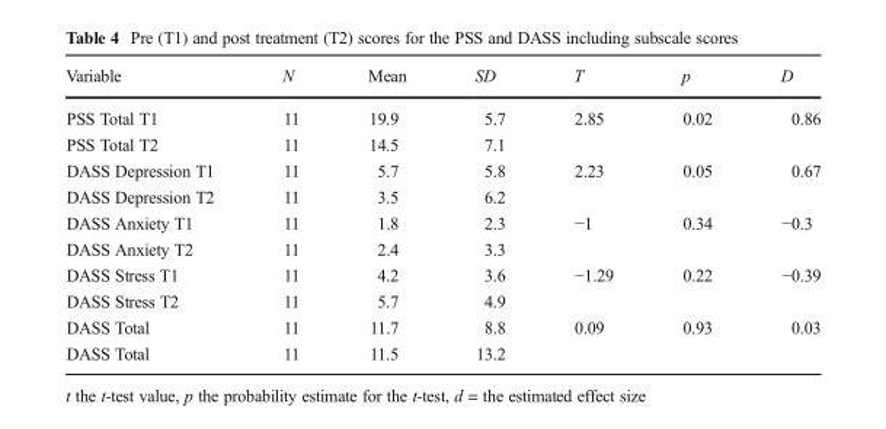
<table><thead><tr><td>Variable</td><td>N</td><td>Mean</td><td>SD</td><td>T</td><td>p</td><td>D</td></tr></thead><tbody><tr><td>PSS Total T1</td><td>11</td><td>19.9</td><td>5.7</td><td>2.85</td><td>0.02</td><td>0.86</td></tr><tr><td>PSS Total T2</td><td>11</td><td>14.5</td><td>7.1</td><td></td><td></td><td></td></tr><tr><td>DASS Depression T1</td><td>11</td><td>5.7</td><td>5.8</td><td>2.23</td><td>0.05</td><td>0.67</td></tr><tr><td>DASS Depression T2</td><td>11</td><td>3.5</td><td>6.2</td><td></td><td></td><td></td></tr><tr><td>DASS Anxiety T1</td><td>11</td><td>1.8</td><td>2.3</td><td>−1</td><td>0.34</td><td>−0.3</td></tr><tr><td>DASS Anxiety T2</td><td>11</td><td>2.4</td><td>3.3</td><td></td><td></td><td></td></tr><tr><td>DASS Stress T1</td><td>11</td><td>4.2</td><td>3.6</td><td>−1.29</td><td>0.22</td><td>−0.39</td></tr><tr><td>DASS Stress T2</td><td>11</td><td>5.7</td><td>4.9</td><td></td><td></td><td></td></tr><tr><td>DASS Total</td><td>11</td><td>11.7</td><td>8.8</td><td>0.09</td><td>0.93</td><td>0.03</td></tr><tr><td>DASS Total</td><td>11</td><td>11.5</td><td>13.2</td><td></td><td></td><td></td></tr></tbody></table>